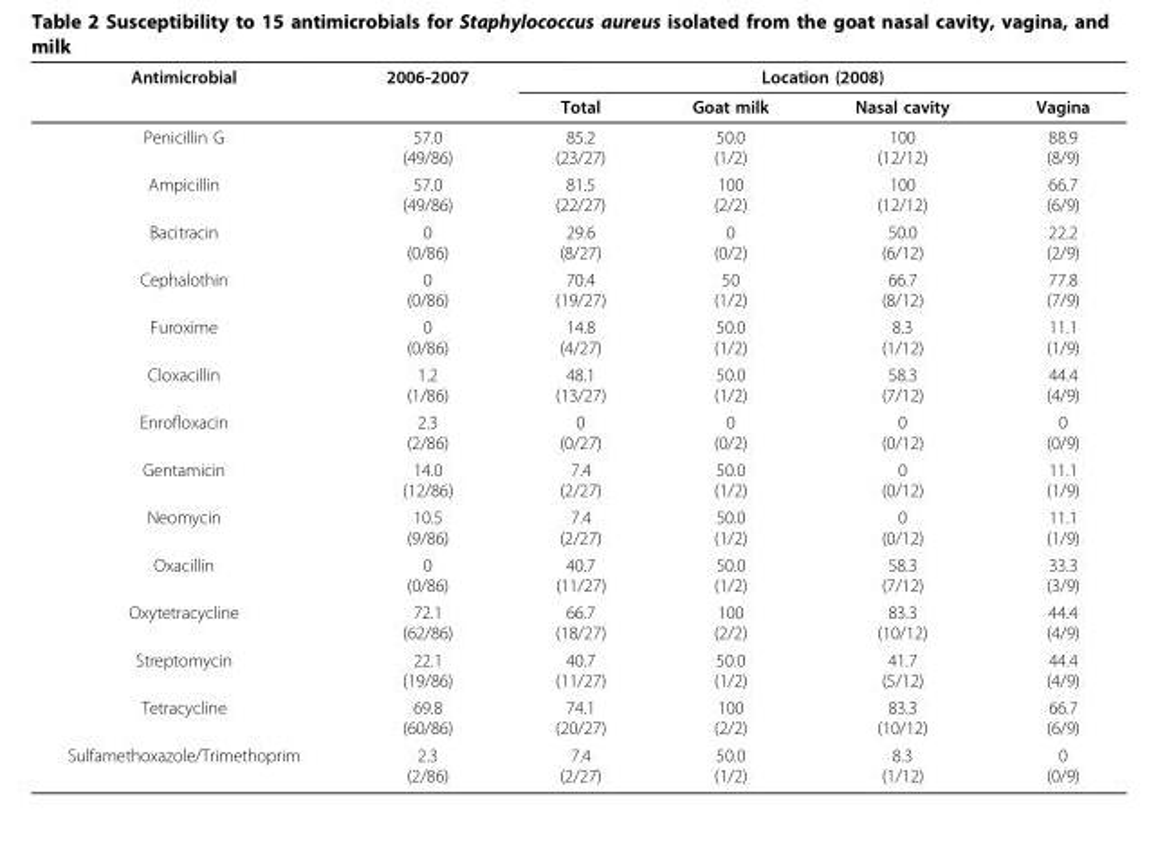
<table><thead><tr><td rowspan="2">Antimicrobial</td><td rowspan="2">2006-2007</td><td colspan="4">Location (2008)</td></tr><tr><td>Total</td><td>Goat milk</td><td>Nasal cavity</td><td>Vagina</td></tr></thead><tbody><tr><td>Penicillin G</td><td>57.0 (49/86)</td><td>85.2 (23/27)</td><td>50.0 (1/2)</td><td>100 (12/12)</td><td>88.9 (8/9)</td></tr><tr><td>Ampicillin</td><td>57.0 (49/86)</td><td>81.5 (22/27)</td><td>100 (2/2)</td><td>100 (12/12)</td><td>66.7 (6/9)</td></tr><tr><td>Bacitracin</td><td>0 (0/86)</td><td>29.6 (8/27)</td><td>0 (0/2)</td><td>50.0 (6/12)</td><td>22.2 (2/9)</td></tr><tr><td>Cephalothin</td><td>0 (0/86)</td><td>70.4 (19/27)</td><td>50 (1/2)</td><td>66.7 (8/12)</td><td>77.8 (7/9)</td></tr><tr><td>Furoxime</td><td>0 (0/86)</td><td>14.8 (4/27)</td><td>50.0 (1/2)</td><td>8.3 (1/12)</td><td>11.1 (1/9)</td></tr><tr><td>Cloxacillin</td><td>1.2 (1/86)</td><td>48.1 (13/27)</td><td>50.0 (1/2)</td><td>58.3 (7/12)</td><td>44.4 (4/9)</td></tr><tr><td>Enrofloxacin</td><td>2.3 (2/86)</td><td>0 (0/27)</td><td>0 (0/2)</td><td>0 (0/12)</td><td>0 (0/9)</td></tr><tr><td>Gentamicin</td><td>14.0 (12/86)</td><td>7.4 (2/27)</td><td>50.0 (1/2)</td><td>0 (0/12)</td><td>11.1 (1/9)</td></tr><tr><td>Neomycin</td><td>10.5 (9/86)</td><td>7.4 (2/27)</td><td>50.0 (1/2)</td><td>0 (0/12)</td><td>11.1 (1/9)</td></tr><tr><td>Oxacillin</td><td>0 (0/86)</td><td>40.7 (11/27)</td><td>50.0 (1/2)</td><td>58.3 (7/12)</td><td>33.3 (3/9)</td></tr><tr><td>Oxytetracycline</td><td>72.1 (62/86)</td><td>66.7 (18/27)</td><td>100 (2/2)</td><td>83.3 (10/12)</td><td>44.4 (4/9)</td></tr><tr><td>Streptomycin</td><td>22.1 (19/86)</td><td>40.7 (11/27)</td><td>50.0 (1/2)</td><td>41.7 (5/12)</td><td>44.4 (4/9)</td></tr><tr><td>Tetracycline</td><td>69.8 (60/86)</td><td>74.1 (20/27)</td><td>100 (2/2)</td><td>83.3 (10/12)</td><td>66.7 (6/9)</td></tr><tr><td>Sulfamethoxazole/Trimethoprim</td><td>2.3 (2/86)</td><td>7.4 (2/27)</td><td>50.0 (1/2)</td><td>8.3 (1/12)</td><td>0 (0/9)</td></tr></tbody></table>